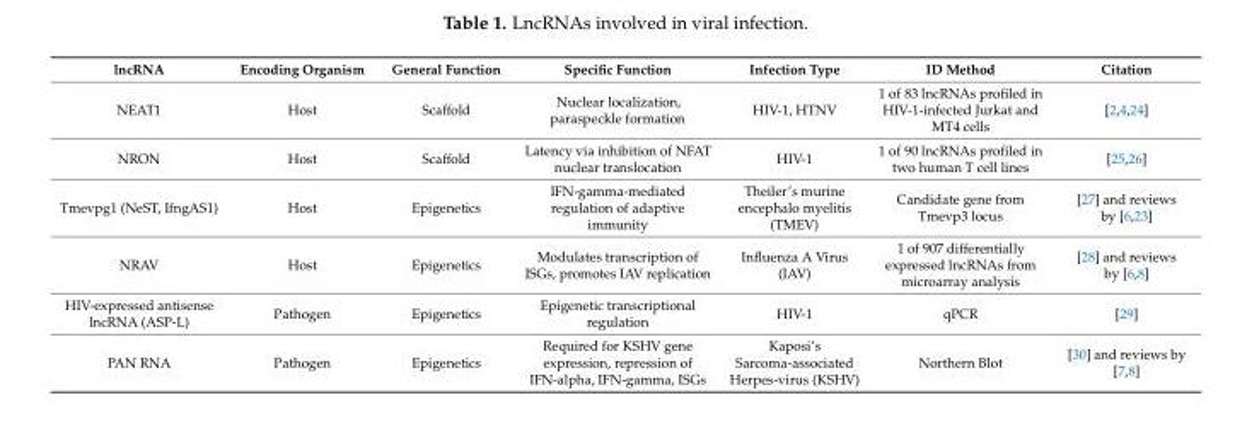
<table><thead><tr><td>lncRNA</td><td>Encoding Organism</td><td>General Function</td><td>Specific Function</td><td>Infection Type</td><td>ID Method</td><td>Citation</td></tr></thead><tbody><tr><td>NEAT1</td><td>Host</td><td>Scaffold</td><td>Nuclear localization, paraspeckle formation</td><td>HIV-1, HTNV</td><td>1 of 83 lncRNAs profiled in HIV-1-infected Jurkat and MT4 cells</td><td>[2,4,24]</td></tr><tr><td>NRON</td><td>Host</td><td>Scaffold</td><td>Latency via inhibition of NFAT nuclear translocation</td><td>HIV-1</td><td>1 of 90 lncRNAs profiled in two human T cell lines</td><td>[25,26]</td></tr><tr><td>Tmevpg1 (NeST, IfngAS1)</td><td>Host</td><td>Epigenetics</td><td>IFN-gamma-mediated regulation of adaptive immunity</td><td>Theiler’s murine encephalo myelitis (TMEV)</td><td>Candidate gene from Tmevp3 locus</td><td>[27] and reviews by [6,23]</td></tr><tr><td>NRAV</td><td>Host</td><td>Epigenetics</td><td>Modulates transcription of ISGs, promotes IAV replication</td><td>Influenza A Virus (IAV)</td><td>1 of 907 differentially expressed lncRNAs from microarray analysis</td><td>[28] and reviews by [6,8]</td></tr><tr><td>HIV-expressed antisense lncRNA (ASP-L)</td><td>Pathogen</td><td>Epigenetics</td><td>Epigenetic transcriptional regulation</td><td>HIV-1</td><td>qPCR</td><td>[29]</td></tr><tr><td>PAN RNA</td><td>Pathogen</td><td>Epigenetics</td><td>Required for KSHV gene expression, repression of IFN-alpha, IFN-gamma, ISGs</td><td>Kaposi’s Sarcoma-associated Herpes-virus (KSHV)</td><td>Northern Blot</td><td>[30] and reviews by [7,8]</td></tr></tbody></table>